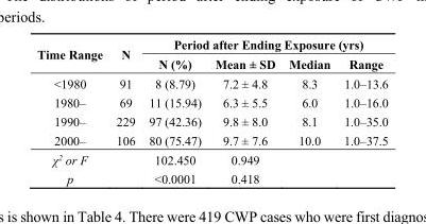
<table><thead><tr><td rowspan="2">Time Range</td><td rowspan="2">N</td><td colspan="4">Period after Ending Exposure (yrs)</td></tr><tr><td>N (%)</td><td>Mean ± SD</td><td>Median</td><td>Range</td></tr></thead><tbody><tr><td>&lt;1980</td><td>91</td><td>8 (8.79)</td><td>7.2 ± 4.8</td><td>8.3</td><td>1.0–13.6</td></tr><tr><td>1980–</td><td>69</td><td>11 (15.94)</td><td>6.3 ± 5.5</td><td>6.0</td><td>1.0–16.0</td></tr><tr><td>1990–</td><td>229</td><td>97 (42.36)</td><td>9.8 ± 8.0</td><td>8.1</td><td>1.0–35.0</td></tr><tr><td>2000–</td><td>106</td><td>80 (75.47)</td><td>9.7 ± 7.6</td><td>10.0</td><td>1.0–37.5</td></tr><tr><td>χ<sup>2</sup> or F</td><td></td><td>102.450</td><td>0.949</td><td></td><td></td></tr><tr><td>p</td><td></td><td>&lt;0.0001</td><td>0.418</td><td></td><td></td></tr></tbody></table>